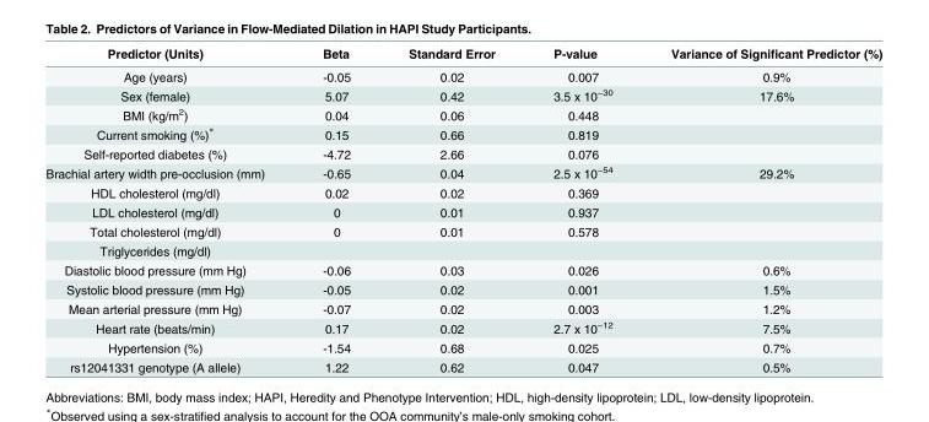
<table><thead><tr><td>Predictor (Units)</td><td>Beta</td><td>Standard Error</td><td>P-value</td><td>Variance of Significant Predictor (%)</td></tr></thead><tbody><tr><td>Age (years)</td><td>-0.05</td><td>0.02</td><td>0.007</td><td>0.9%</td></tr><tr><td>Sex (female)</td><td>5.07</td><td>0.42</td><td>3.5 x 10<sup>−30</sup></td><td>17.6%</td></tr><tr><td>BMI (kg/m<sup>2</sup>)</td><td>0.04</td><td>0.06</td><td>0.448</td><td></td></tr><tr><td>Current smoking (%)*</td><td>0.15</td><td>0.66</td><td>0.819</td><td></td></tr><tr><td>Self-reported diabetes (%)</td><td>-4.72</td><td>2.66</td><td>0.076</td><td></td></tr><tr><td>Brachial artery width pre-occlusion (mm)</td><td>-0.65</td><td>0.04</td><td>2.5 x 10<sup>−54</sup></td><td>29.2%</td></tr><tr><td>HDL cholesterol (mg/dl)</td><td>0.02</td><td>0.02</td><td>0.369</td><td></td></tr><tr><td>LDL cholesterol (mg/dl)</td><td>0</td><td>0.01</td><td>0.937</td><td></td></tr><tr><td>Total cholesterol (mg/dl)</td><td>0</td><td>0.01</td><td>0.578</td><td></td></tr><tr><td colspan="5">Triglycerides (mg/dl)</td></tr><tr><td>Diastolic blood pressure (mm Hg)</td><td>-0.06</td><td>0.03</td><td>0.026</td><td>0.6%</td></tr><tr><td>Systolic blood pressure (mm Hg)</td><td>-0.05</td><td>0.02</td><td>0.001</td><td>1.5%</td></tr><tr><td>Mean arterial pressure (mm Hg)</td><td>-0.07</td><td>0.02</td><td>0.003</td><td>1.2%</td></tr><tr><td>Heart rate (beats/min)</td><td>0.17</td><td>0.02</td><td>2.7 x 10<sup>−12</sup></td><td>7.5%</td></tr><tr><td>Hypertension (%)</td><td>-1.54</td><td>0.68</td><td>0.025</td><td>0.7%</td></tr><tr><td>rs12041331 genotype (A allele)</td><td>1.22</td><td>0.62</td><td>0.047</td><td>0.5%</td></tr></tbody></table>